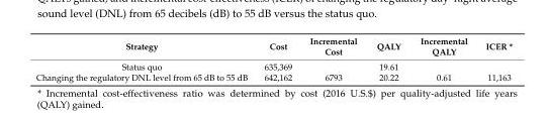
<table><thead><tr><td>Strategy</td><td>Cost</td><td>Incremental Cost</td><td>QALY</td><td>Incremental QALY</td><td>ICER *</td></tr></thead><tbody><tr><td>Status quo</td><td>635,369</td><td></td><td>19.61</td><td></td><td></td></tr><tr><td>Changing the regulatory DNL level from 65 dB to 55 dB</td><td>642,162</td><td>6793</td><td>20.22</td><td>0.61</td><td>11,163</td></tr></tbody></table>